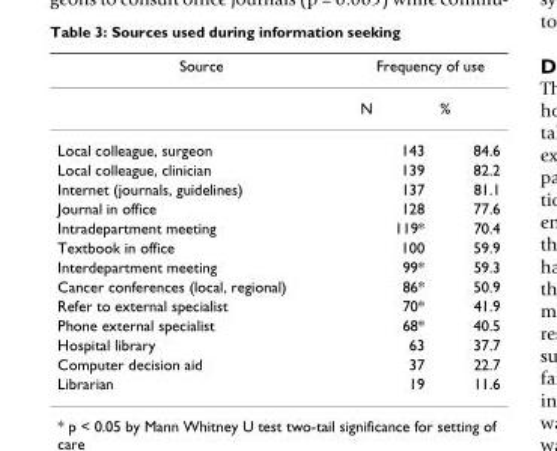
<table><thead><tr><td rowspan="2">Source</td><td colspan="2">Frequency of use</td></tr><tr><td>N</td><td>%</td></tr></thead><tbody><tr><td>Local colleague, surgeon</td><td>143</td><td>84.6</td></tr><tr><td>Local colleague, clinician</td><td>139</td><td>82.2</td></tr><tr><td>Internet (journals, guidelines)</td><td>137</td><td>81.1</td></tr><tr><td>Journal in office</td><td>128</td><td>77.6</td></tr><tr><td>Intradepartment meeting</td><td>119*</td><td>70.4</td></tr><tr><td>Textbook in office</td><td>100</td><td>59.9</td></tr><tr><td>Interdepartment meeting</td><td>99*</td><td>59.3</td></tr><tr><td>Cancer conferences (local, regional)</td><td>86*</td><td>50.9</td></tr><tr><td>Refer to external specialist</td><td>70*</td><td>41.9</td></tr><tr><td>Phone external specialist</td><td>68*</td><td>40.5</td></tr><tr><td>Hospital library</td><td>63</td><td>37.7</td></tr><tr><td>Computer decision aid</td><td>37</td><td>22.7</td></tr><tr><td>Librarian</td><td>19</td><td>11.6</td></tr></tbody></table>